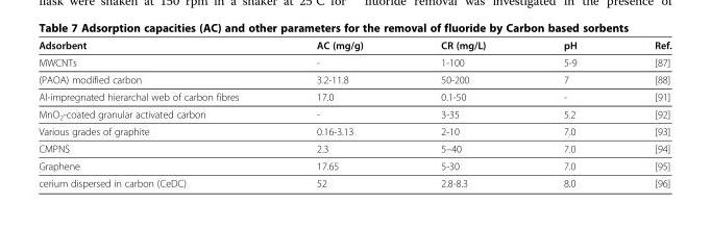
<table><thead><tr><td>Adsorbent</td><td>AC (mg/g)</td><td>CR (mg/L)</td><td>pH</td><td>Ref.</td></tr></thead><tbody><tr><td>MWCNTs</td><td>-</td><td>1-100</td><td>5-9</td><td>[87]</td></tr><tr><td>(PAOA) modified carbon</td><td>3.2-11.8</td><td>50-200</td><td>7</td><td>[88]</td></tr><tr><td>Al-impregnated hierarchal web of carbon fibres</td><td>17.0</td><td>0.1-50</td><td>-</td><td>[91]</td></tr><tr><td>MnO<sub>2</sub>-coated granular activated carbon</td><td>-</td><td>3-35</td><td>5.2</td><td>[92]</td></tr><tr><td>Various grades of graphite</td><td>0.16-3.13</td><td>2-10</td><td>7.0</td><td>[93]</td></tr><tr><td>CMPNS</td><td>2.3</td><td>5–40</td><td>7.0</td><td>[94]</td></tr><tr><td>Graphene</td><td>17.65</td><td>5-30</td><td>7.0</td><td>[95]</td></tr><tr><td>cerium dispersed in carbon (CeDC)</td><td>52</td><td>2.8-8.3</td><td>8.0</td><td>[96]</td></tr></tbody></table>